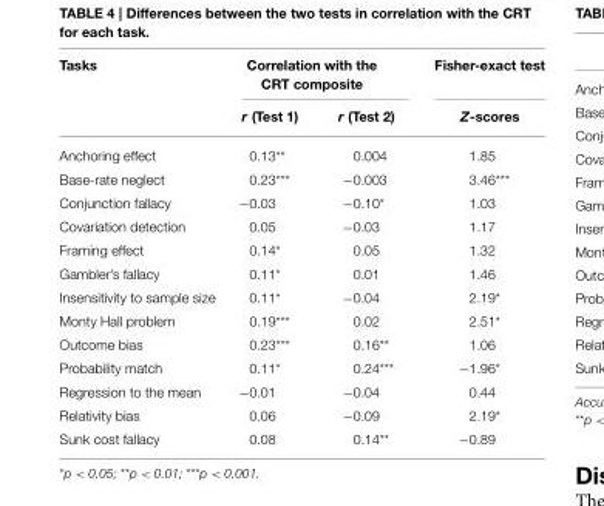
<table><thead><tr><td rowspan="2">Tasks</td><td colspan="2">Correlation with the CRT composite</td><td rowspan="2">Fisher-exact test Z-scores</td></tr><tr><td>r (Test 1)</td><td>r (Test 2)</td></tr></thead><tbody><tr><td>Anchoring effect</td><td>0.13**</td><td>0.004</td><td>1.85</td></tr><tr><td>Base-rate neglect</td><td>0.23***</td><td>−0.003</td><td>3.46***</td></tr><tr><td>Conjunction fallacy</td><td>−0.03</td><td>−0.10*</td><td>1.03</td></tr><tr><td>Covariation detection</td><td>0.05</td><td>−0.03</td><td>1.17</td></tr><tr><td>Framing effect</td><td>0.14*</td><td>0.05</td><td>1.32</td></tr><tr><td>Gambler’s fallacy</td><td>0.11*</td><td>0.01</td><td>1.46</td></tr><tr><td>Insensitivity to sample size</td><td>0.11*</td><td>−0.04</td><td>2.19*</td></tr><tr><td>Monty Hall problem</td><td>0.19***</td><td>0.02</td><td>2.51*</td></tr><tr><td>Outcome bias</td><td>0.23***</td><td>0.16**</td><td>1.06</td></tr><tr><td>Probability match</td><td>0.11*</td><td>0.24***</td><td>−1.96*</td></tr><tr><td>Regression to the mean</td><td>−0.01</td><td>−0.04</td><td>0.44</td></tr><tr><td>Relativity bias</td><td>0.06</td><td>−0.09</td><td>2.19*</td></tr><tr><td>Sunk cost fallacy</td><td>0.08</td><td>0.14**</td><td>−0.89</td></tr></tbody></table>